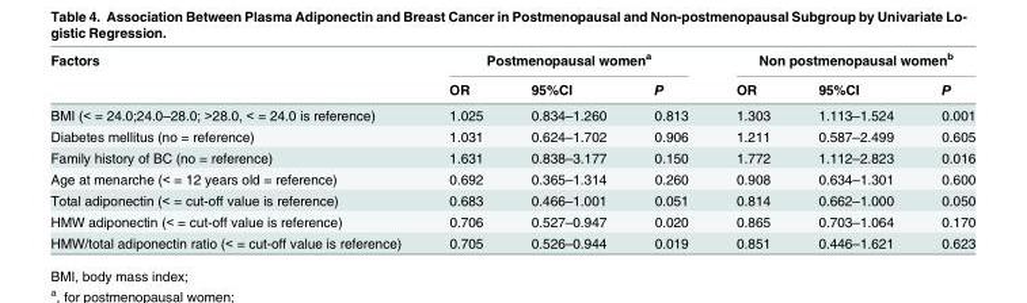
<table><thead><tr><td rowspan="2">Factors</td><td colspan="3">Postmenopausal women<sup>a</sup></td><td colspan="3">Non postmenopausal women<sup>b</sup></td></tr><tr><td>OR</td><td>95%CI</td><td>P</td><td>OR</td><td>95%CI</td><td>P</td></tr></thead><tbody><tr><td>BMI (&lt; = 24.0;24.0–28.0; &gt;28.0, &lt; = 24.0 is reference)</td><td>1.025</td><td>0.834–1.260</td><td>0.813</td><td>1.303</td><td>1.113–1.524</td><td>0.001</td></tr><tr><td>Diabetes mellitus (no = reference)</td><td>1.031</td><td>0.624–1.702</td><td>0.906</td><td>1.211</td><td>0.587–2.499</td><td>0.605</td></tr><tr><td>Family history of BC (no = reference)</td><td>1.631</td><td>0.838–3.177</td><td>0.150</td><td>1.772</td><td>1.112–2.823</td><td>0.016</td></tr><tr><td>Age at menarche (&lt; = 12 years old = reference)</td><td>0.692</td><td>0.365–1.314</td><td>0.260</td><td>0.908</td><td>0.634–1.301</td><td>0.600</td></tr><tr><td>Total adiponectin (&lt; = cut-off value is reference)</td><td>0.683</td><td>0.466–1.001</td><td>0.051</td><td>0.814</td><td>0.662–1.000</td><td>0.050</td></tr><tr><td>HMW adiponectin (&lt; = cut-off value is reference)</td><td>0.706</td><td>0.527–0.947</td><td>0.020</td><td>0.865</td><td>0.703–1.064</td><td>0.170</td></tr><tr><td>HMW/total adiponectin ratio (&lt; = cut-off value is reference)</td><td>0.705</td><td>0.526–0.944</td><td>0.019</td><td>0.851</td><td>0.446–1.621</td><td>0.623</td></tr></tbody></table>